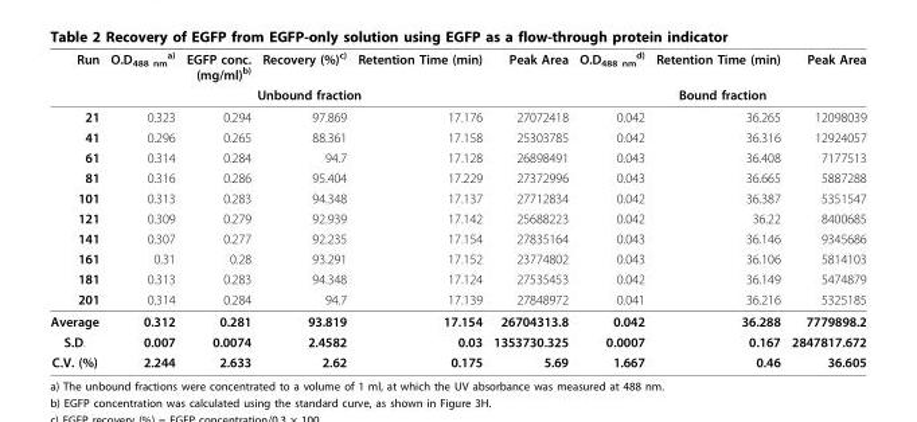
<table><tbody><tr><td>Run</td><td>O.D<sub>488 nm</sub> <sup>a)</sup></td><td>EGFP conc. (mg/ml)<sup>b)</sup></td><td>Recovery (%)<sup>c)</sup></td><td>Retention Time (min)</td><td>Peak Area</td><td>O.D<sub>488 nm</sub> <sup>d)</sup></td><td>Retention Time (min)</td><td>Peak Area</td></tr><tr><td colspan="6">Unbound fraction</td><td colspan="3">Bound fraction</td></tr><tr><td>21</td><td>0.323</td><td>0.294</td><td>97.869</td><td>17.176</td><td>27072418</td><td>0.042</td><td>36.265</td><td>12098039</td></tr><tr><td>41</td><td>0.296</td><td>0.265</td><td>88.361</td><td>17.158</td><td>25303785</td><td>0.042</td><td>36.316</td><td>12924057</td></tr><tr><td>61</td><td>0.314</td><td>0.284</td><td>94.7</td><td>17.128</td><td>26898491</td><td>0.043</td><td>36.408</td><td>7177513</td></tr><tr><td>81</td><td>0.316</td><td>0.286</td><td>95.404</td><td>17.229</td><td>27372996</td><td>0.043</td><td>36.665</td><td>5887288</td></tr><tr><td>101</td><td>0.313</td><td>0.283</td><td>94.348</td><td>17.137</td><td>27712834</td><td>0.042</td><td>36.387</td><td>5351547</td></tr><tr><td>121</td><td>0.309</td><td>0.279</td><td>92.939</td><td>17.142</td><td>25688223</td><td>0.042</td><td>36.22</td><td>8400685</td></tr><tr><td>141</td><td>0.307</td><td>0.277</td><td>92.235</td><td>17.154</td><td>27835164</td><td>0.043</td><td>36.146</td><td>9345686</td></tr><tr><td>161</td><td>0.31</td><td>0.28</td><td>93.291</td><td>17.152</td><td>23774802</td><td>0.043</td><td>36.106</td><td>5814103</td></tr><tr><td>181</td><td>0.313</td><td>0.283</td><td>94.348</td><td>17.124</td><td>27535453</td><td>0.042</td><td>36.149</td><td>5474879</td></tr><tr><td>201</td><td>0.314</td><td>0.284</td><td>94.7</td><td>17.139</td><td>27848972</td><td>0.041</td><td>36.216</td><td>5325185</td></tr><tr><td>Average</td><td>0.312</td><td>0.281</td><td>93.819</td><td>17.154</td><td>26704313.8</td><td>0.042</td><td>36.288</td><td>7779898.2</td></tr><tr><td>S.D.</td><td>0.007</td><td>0.0074</td><td>2.4582</td><td>0.03</td><td>1353730.325</td><td>0.0007</td><td>0.167</td><td>2847817.672</td></tr><tr><td>C.V. (%)</td><td>2.244</td><td>2.633</td><td>2.62</td><td>0.175</td><td>5.69</td><td>1.667</td><td>0.46</td><td>36.605</td></tr></tbody></table>